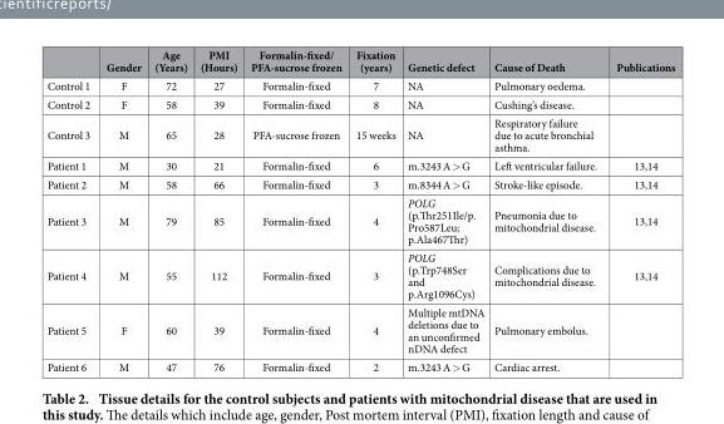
<table><thead><tr><td></td><td>Gender</td><td>Age (Years)</td><td>PMI (Hours)</td><td>Formalin-fixed/ PFA-sucrose frozen</td><td>Fixation (years)</td><td>Genetic defect</td><td>Cause of Death</td><td>Publications</td></tr></thead><tbody><tr><td>Control 1</td><td>F</td><td>72</td><td>27</td><td>Formalin-fixed</td><td>7</td><td>NA</td><td>Pulmonary oedema.</td><td></td></tr><tr><td>Control 2</td><td>F</td><td>58</td><td>39</td><td>Formalin-fixed</td><td>8</td><td>NA</td><td>Cushing’s disease.</td><td></td></tr><tr><td>Control 3</td><td>M</td><td>65</td><td>28</td><td>PFA-sucrose frozen</td><td>15 weeks</td><td>NA</td><td>Respiratory failure due to acute bronchial asthma.</td><td></td></tr><tr><td>Patient 1</td><td>M</td><td>30</td><td>21</td><td>Formalin-fixed</td><td>6</td><td>m.3243 A &gt; G</td><td>Left ventricular failure.</td><td>13,14</td></tr><tr><td>Patient 2</td><td>M</td><td>58</td><td>66</td><td>Formalin-fixed</td><td>3</td><td>m.8344 A &gt; G</td><td>Stroke-like episode.</td><td>13,14</td></tr><tr><td>Patient 3</td><td>M</td><td>79</td><td>85</td><td>Formalin-fixed</td><td>4</td><td>POLG (p.Thr251Ile/p. Pro587Leu; p.Ala467Thr)</td><td>Pneumonia due to mitochondrial disease.</td><td>13,14</td></tr><tr><td>Patient 4</td><td>M</td><td>55</td><td>112</td><td>Formalin-fixed</td><td>3</td><td>POLG (p.Trp748Ser and p.Arg1096Cys)</td><td>Complications due to mitochondrial disease.</td><td>13,14</td></tr><tr><td>Patient 5</td><td>F</td><td>60</td><td>39</td><td>Formalin-fixed</td><td>4</td><td>Multiple mtDNA deletions due to an unconfirmed nDNA defect</td><td>Pulmonary embolus.</td><td></td></tr><tr><td>Patient 6</td><td>M</td><td>47</td><td>76</td><td>Formalin-fixed</td><td>2</td><td>m.3243 A &gt; G</td><td>Cardiac arrest.</td><td></td></tr></tbody></table>